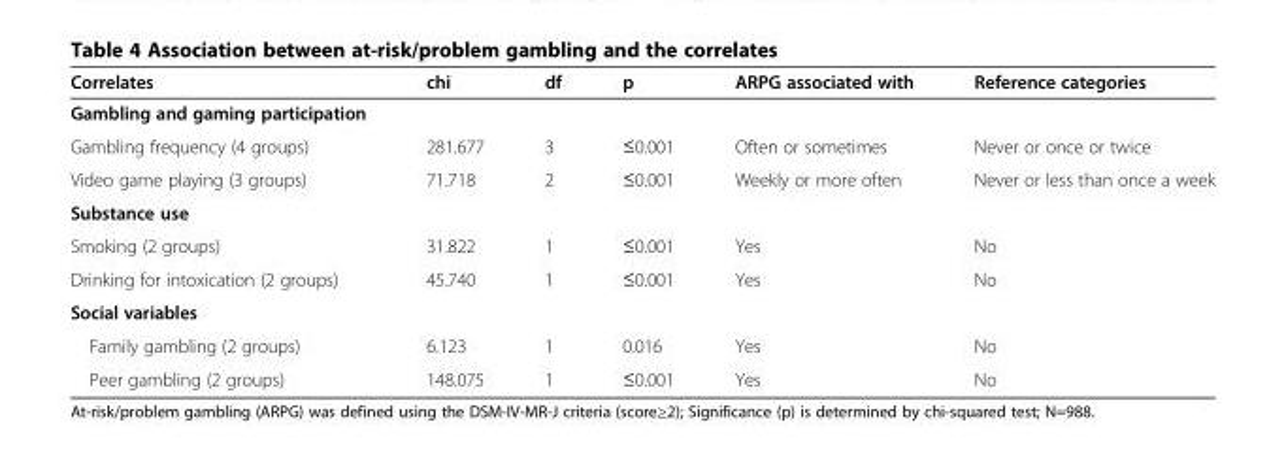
<table><thead><tr><td>Correlates</td><td>chi</td><td>df</td><td>p</td><td>ARPG associated with</td><td>Reference categories</td></tr></thead><tbody><tr><td colspan="6">Gambling and gaming participation</td></tr><tr><td>Gambling frequency (4 groups)</td><td>281.677</td><td>3</td><td>≤0.001</td><td>Often or sometimes</td><td>Never or once or twice</td></tr><tr><td>Video game playing (3 groups)</td><td>71.718</td><td>2</td><td>≤0.001</td><td>Weekly or more often</td><td>Never or less than once a week</td></tr><tr><td colspan="6">Substance use</td></tr><tr><td>Smoking (2 groups)</td><td>31.822</td><td>1</td><td>≤0.001</td><td>Yes</td><td>No</td></tr><tr><td>Drinking for intoxication (2 groups)</td><td>45.740</td><td>1</td><td>≤0.001</td><td>Yes</td><td>No</td></tr><tr><td colspan="6">Social variables</td></tr><tr><td>Family gambling (2 groups)</td><td>6.123</td><td>1</td><td>0.016</td><td>Yes</td><td>No</td></tr><tr><td>Peer gambling (2 groups)</td><td>148.075</td><td>1</td><td>≤0.001</td><td>Yes</td><td>No</td></tr></tbody></table>